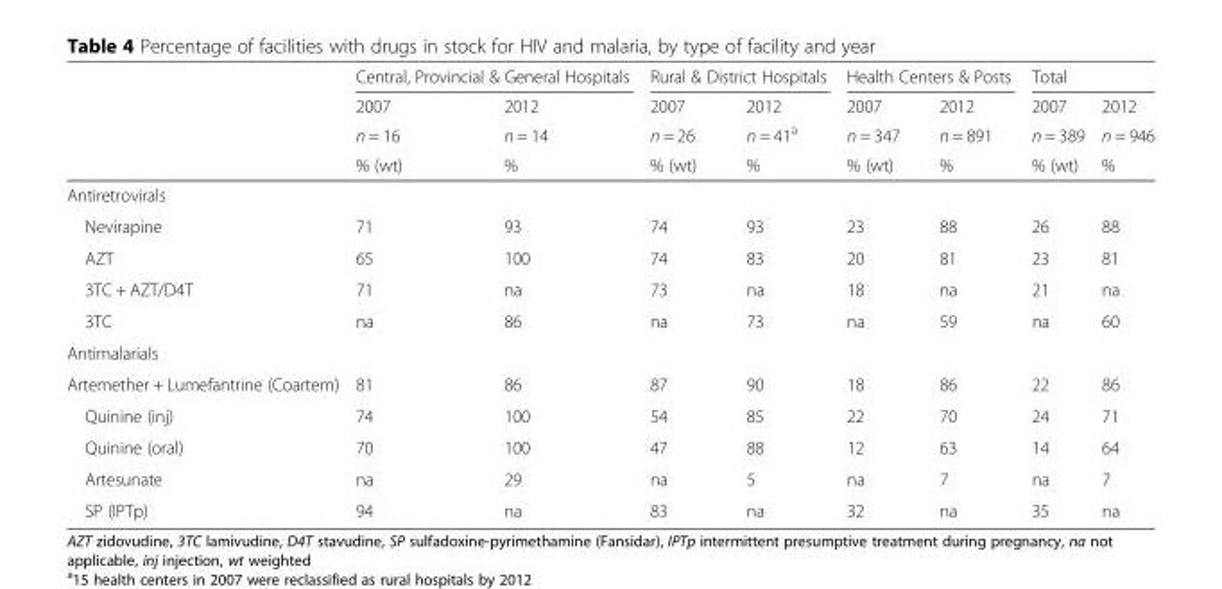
<table><thead><tr><td rowspan="4"></td><td colspan="2">Central, Provincial &amp; General Hospitals</td><td colspan="2">Rural &amp; District Hospitals</td><td colspan="2">Health Centers &amp; Posts</td><td colspan="2">Total</td></tr><tr><td rowspan="3">2007 n = 16 % (wt)</td><td rowspan="3">2012 n = 14 %</td><td rowspan="3">2007 n = 26 % (wt)</td><td rowspan="3">2012 n = 41<sup>a</sup> %</td><td rowspan="3">2007 n = 347 % (wt)</td><td rowspan="3">2012 n = 891 %</td><td rowspan="3">2007 n = 389 % (wt)</td><td rowspan="3">2012 n = 946 %</td></tr><tr></tr><tr></tr></thead><tbody><tr><td colspan="9">Antiretrovirals</td></tr><tr><td>Nevirapine</td><td>71</td><td>93</td><td>74</td><td>93</td><td>23</td><td>88</td><td>26</td><td>88</td></tr><tr><td>AZT</td><td>65</td><td>100</td><td>74</td><td>83</td><td>20</td><td>81</td><td>23</td><td>81</td></tr><tr><td>3TC + AZT/D4T</td><td>71</td><td>na</td><td>73</td><td>na</td><td>18</td><td>na</td><td>21</td><td>na</td></tr><tr><td>3TC</td><td>na</td><td>86</td><td>na</td><td>73</td><td>na</td><td>59</td><td>na</td><td>60</td></tr><tr><td colspan="9">Antimalarials</td></tr><tr><td>Artemether + Lumefantrine (Coartem)</td><td>81</td><td>86</td><td>87</td><td>90</td><td>18</td><td>86</td><td>22</td><td>86</td></tr><tr><td>Quinine (inj)</td><td>74</td><td>100</td><td>54</td><td>85</td><td>22</td><td>70</td><td>24</td><td>71</td></tr><tr><td>Quinine (oral)</td><td>70</td><td>100</td><td>47</td><td>88</td><td>12</td><td>63</td><td>14</td><td>64</td></tr><tr><td>Artesunate</td><td>na</td><td>29</td><td>na</td><td>5</td><td>na</td><td>7</td><td>na</td><td>7</td></tr><tr><td>SP (IPTp)</td><td>94</td><td>na</td><td>83</td><td>na</td><td>32</td><td>na</td><td>35</td><td>na</td></tr></tbody></table>